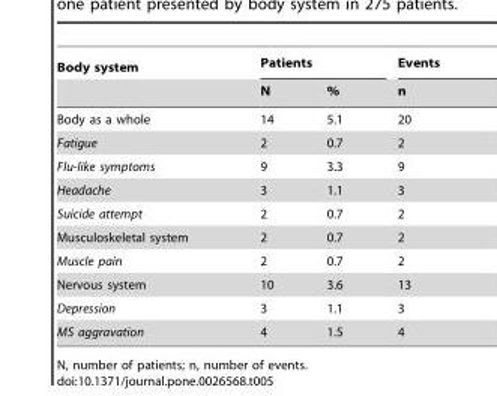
<table><thead><tr><td rowspan="2">Body system</td><td colspan="2">Patients</td><td rowspan="2">Events n</td></tr><tr><td>N</td><td>%</td></tr></thead><tbody><tr><td>Body as a whole</td><td>14</td><td>5.1</td><td>20</td></tr><tr><td>Fatigue</td><td>2</td><td>0.7</td><td>2</td></tr><tr><td>Flu-like symptoms</td><td>9</td><td>3.3</td><td>9</td></tr><tr><td>Headache</td><td>3</td><td>1.1</td><td>3</td></tr><tr><td>Suicide attempt</td><td>2</td><td>0.7</td><td>2</td></tr><tr><td>Musculoskeletal system</td><td>2</td><td>0.7</td><td>2</td></tr><tr><td>Muscle pain</td><td>2</td><td>0.7</td><td>2</td></tr><tr><td>Nervous system</td><td>10</td><td>3.6</td><td>13</td></tr><tr><td>Depression</td><td>3</td><td>1.1</td><td>3</td></tr><tr><td>MS aggravation</td><td>4</td><td>1.5</td><td>4</td></tr></tbody></table>